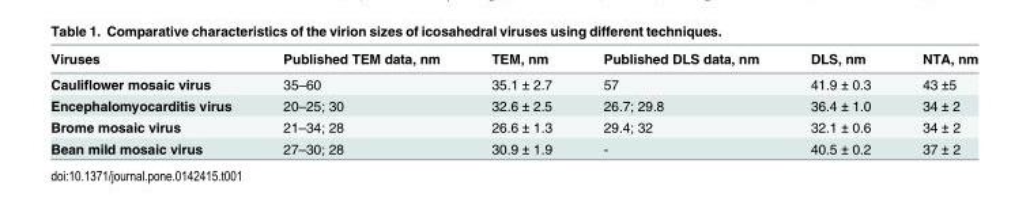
<table><thead><tr><td>Viruses</td><td>Published TEM data, nm</td><td>TEM, nm</td><td>Published DLS data, nm</td><td>DLS, nm</td><td>NTA, nm</td></tr></thead><tbody><tr><td>Cauliflower mosaic virus</td><td>35–60</td><td>35.1 ± 2.7</td><td>57</td><td>41.9 ± 0.3</td><td>43 ±5</td></tr><tr><td>Encephalomyocarditis virus</td><td>20–25; 30</td><td>32.6 ± 2.5</td><td>26.7; 29.8</td><td>36.4 ± 1.0</td><td>34 ± 2</td></tr><tr><td>Brome mosaic virus</td><td>21–34; 28</td><td>26.6 ± 1.3</td><td>29.4; 32</td><td>32.1 ± 0.6</td><td>34 ± 2</td></tr><tr><td>Bean mild mosaic virus</td><td>27–30; 28</td><td>30.9 ± 1.9</td><td>-</td><td>40.5 ± 0.2</td><td>37 ± 2</td></tr></tbody></table>